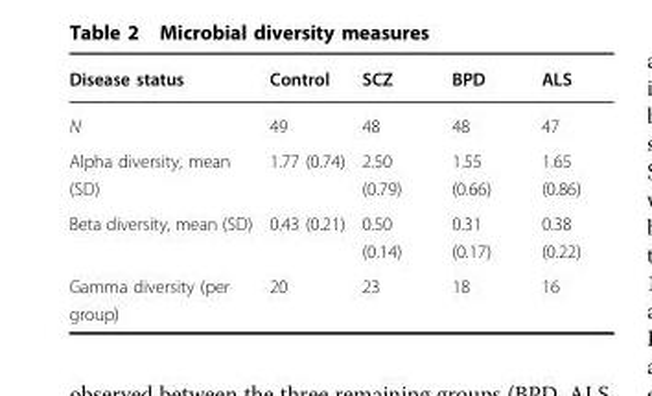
<table><thead><tr><td>Disease status</td><td>Control</td><td>SCZ</td><td>BPD</td><td>ALS</td></tr></thead><tbody><tr><td>N</td><td>49</td><td>48</td><td>48</td><td>47</td></tr><tr><td>Alpha diversity, mean (SD)</td><td>1.77 (0.74)</td><td>2.50 (0.79)</td><td>1.55 (0.66)</td><td>1.65 (0.86)</td></tr><tr><td>Beta diversity, mean (SD)</td><td>0.43 (0.21)</td><td>0.50 (0.14)</td><td>0.31 (0.17)</td><td>0.38 (0.22)</td></tr><tr><td>Gamma diversity (per group)</td><td>20</td><td>23</td><td>18</td><td>16</td></tr></tbody></table>